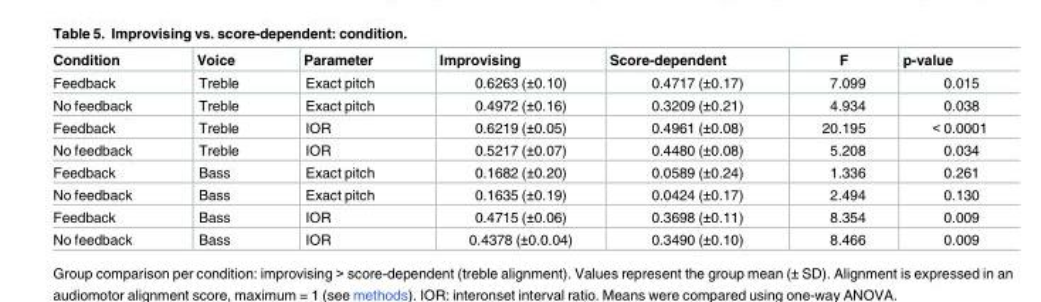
<table><thead><tr><td>Condition</td><td>Voice</td><td>Parameter</td><td>Improvising</td><td>Score-dependent</td><td>F</td><td>p-value</td></tr></thead><tbody><tr><td>Feedback</td><td>Treble</td><td>Exact pitch</td><td>0.6263 (±0.10)</td><td>0.4717 (±0.17)</td><td>7.099</td><td>0.015</td></tr><tr><td>No feedback</td><td>Treble</td><td>Exact pitch</td><td>0.4972 (±0.16)</td><td>0.3209 (±0.21)</td><td>4.934</td><td>0.038</td></tr><tr><td>Feedback</td><td>Treble</td><td>IOR</td><td>0.6219 (±0.05)</td><td>0.4961 (±0.08)</td><td>20.195</td><td>&lt; 0.0001</td></tr><tr><td>No feedback</td><td>Treble</td><td>IOR</td><td>0.5217 (±0.07)</td><td>0.4480 (±0.08)</td><td>5.208</td><td>0.034</td></tr><tr><td>Feedback</td><td>Bass</td><td>Exact pitch</td><td>0.1682 (±0.20)</td><td>0.0589 (±0.24)</td><td>1.336</td><td>0.261</td></tr><tr><td>No feedback</td><td>Bass</td><td>Exact pitch</td><td>0.1635 (±0.19)</td><td>0.0424 (±0.17)</td><td>2.494</td><td>0.130</td></tr><tr><td>Feedback</td><td>Bass</td><td>IOR</td><td>0.4715 (±0.06)</td><td>0.3698 (±0.11)</td><td>8.354</td><td>0.009</td></tr><tr><td>No feedback</td><td>Bass</td><td>IOR</td><td>0.4378 (±0.0.04)</td><td>0.3490 (±0.10)</td><td>8.466</td><td>0.009</td></tr></tbody></table>